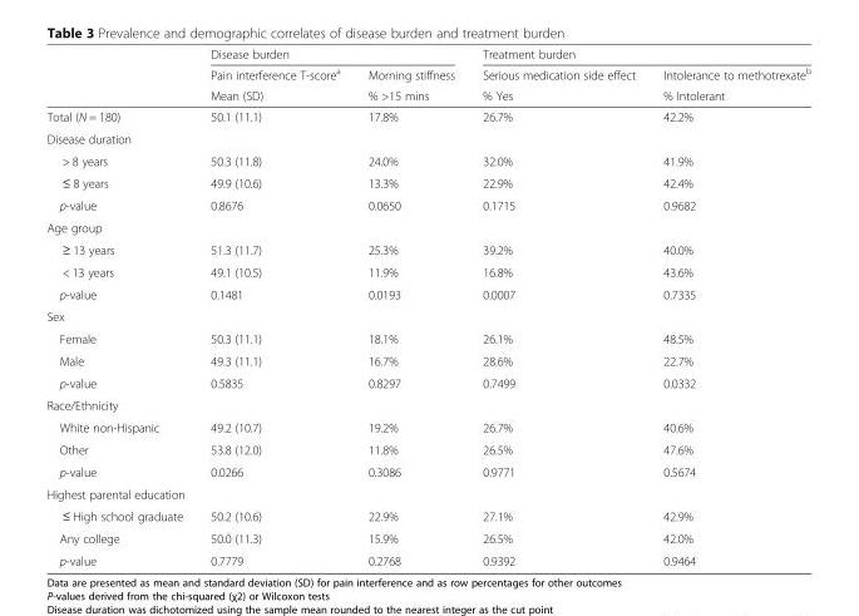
<table><thead><tr><td rowspan="3"></td><td colspan="2">Disease burden</td><td colspan="2">Treatment burden</td></tr><tr><td rowspan="2">Pain interference T-score<sup>a</sup> Mean (SD)</td><td rowspan="2">Morning stiffness % &gt;15 mins</td><td rowspan="2">Serious medication side effect % Yes</td><td rowspan="2">Intolerance to methotrexate<sup>b</sup> % Intolerant</td></tr><tr></tr></thead><tbody><tr><td>Total (N = 180)</td><td>50.1 (11.1)</td><td>17.8%</td><td>26.7%</td><td>42.2%</td></tr><tr><td colspan="5">Disease duration</td></tr><tr><td>&gt; 8 years</td><td>50.3 (11.8)</td><td>24.0%</td><td>32.0%</td><td>41.9%</td></tr><tr><td>≤ 8 years</td><td>49.9 (10.6)</td><td>13.3%</td><td>22.9%</td><td>42.4%</td></tr><tr><td>p-value</td><td>0.8676</td><td>0.0650</td><td>0.1715</td><td>0.9682</td></tr><tr><td colspan="5">Age group</td></tr><tr><td>≥ 13 years</td><td>51.3 (11.7)</td><td>25.3%</td><td>39.2%</td><td>40.0%</td></tr><tr><td>&lt; 13 years</td><td>49.1 (10.5)</td><td>11.9%</td><td>16.8%</td><td>43.6%</td></tr><tr><td>p-value</td><td>0.1481</td><td>0.0193</td><td>0.0007</td><td>0.7335</td></tr><tr><td colspan="5">Sex</td></tr><tr><td>Female</td><td>50.3 (11.1)</td><td>18.1%</td><td>26.1%</td><td>48.5%</td></tr><tr><td>Male</td><td>49.3 (11.1)</td><td>16.7%</td><td>28.6%</td><td>22.7%</td></tr><tr><td>p-value</td><td>0.5835</td><td>0.8297</td><td>0.7499</td><td>0.0332</td></tr><tr><td colspan="5">Race/Ethnicity</td></tr><tr><td>White non-Hispanic</td><td>49.2 (10.7)</td><td>19.2%</td><td>26.7%</td><td>40.6%</td></tr><tr><td>Other</td><td>53.8 (12.0)</td><td>11.8%</td><td>26.5%</td><td>47.6%</td></tr><tr><td>p-value</td><td>0.0266</td><td>0.3086</td><td>0.9771</td><td>0.5674</td></tr><tr><td colspan="5">Highest parental education</td></tr><tr><td>≤ High school graduate</td><td>50.2 (10.6)</td><td>22.9%</td><td>27.1%</td><td>42.9%</td></tr><tr><td>Any college</td><td>50.0 (11.3)</td><td>15.9%</td><td>26.5%</td><td>42.0%</td></tr><tr><td>p-value</td><td>0.7779</td><td>0.2768</td><td>0.9392</td><td>0.9464</td></tr></tbody></table>